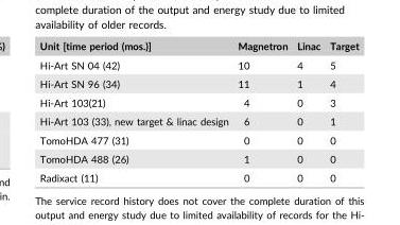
<table><thead><tr><td>Unit [time period (mos.)]</td><td>Magnetron</td><td>Linac</td><td>Target</td></tr></thead><tbody><tr><td>Hi-Art SN 04 (42)</td><td>10</td><td>4</td><td>5</td></tr><tr><td>Hi-Art SN 96 (34)</td><td>11</td><td>1</td><td>4</td></tr><tr><td>Hi-Art 103(21)</td><td>4</td><td>0</td><td>3</td></tr><tr><td>Hi-Art 103 (33), new target &amp; linac design</td><td>6</td><td>0</td><td>1</td></tr><tr><td>TomoHDA 477 (31)</td><td>0</td><td>0</td><td>0</td></tr><tr><td>TomoHDA 488 (26)</td><td>1</td><td>0</td><td>0</td></tr><tr><td>Radixact (11)</td><td>0</td><td>0</td><td>0</td></tr></tbody></table>